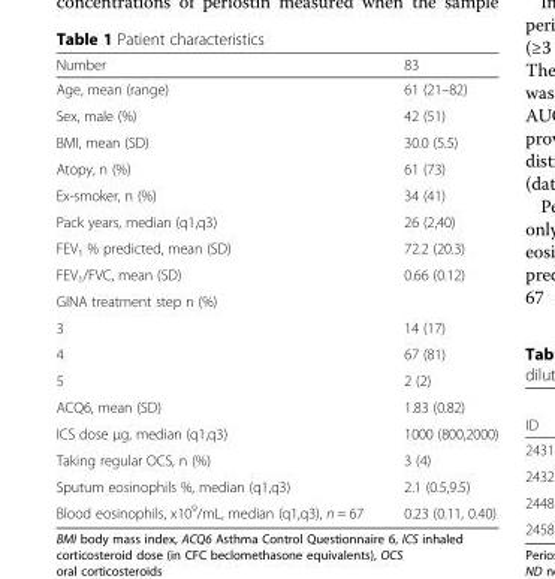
<table><thead><tr><td>Number</td><td>83</td></tr></thead><tbody><tr><td>Age, mean (range)</td><td>61 (21–82)</td></tr><tr><td>Sex, male (%)</td><td>42 (51)</td></tr><tr><td>BMI, mean (SD)</td><td>30.0 (5.5)</td></tr><tr><td>Atopy, n (%)</td><td>61 (73)</td></tr><tr><td>Ex-smoker, n (%)</td><td>34 (41)</td></tr><tr><td>Pack years, median (q1,q3)</td><td>26 (2,40)</td></tr><tr><td>FEV<sub>1</sub> % predicted, mean (SD)</td><td>72.2 (20.3)</td></tr><tr><td>FEV<sub>1</sub>/FVC, mean (SD)</td><td>0.66 (0.12)</td></tr><tr><td colspan="2">GINA treatment step n (%)</td></tr><tr><td>3</td><td>14 (17)</td></tr><tr><td>4</td><td>67 (81)</td></tr><tr><td>5</td><td>2 (2)</td></tr><tr><td>ACQ6, mean (SD)</td><td>1.83 (0.82)</td></tr><tr><td>ICS dose μg, median (q1,q3)</td><td>1000 (800,2000)</td></tr><tr><td>Taking regular OCS, n (%)</td><td>3 (4)</td></tr><tr><td>Sputum eosinophils %, median (q1,q3)</td><td>2.1 (0.5,9.5)</td></tr><tr><td>Blood eosinophils, x10<sup>9</sup>/mL, median (q1,q3), n = 67</td><td>0.23 (0.11, 0.40)</td></tr></tbody></table>